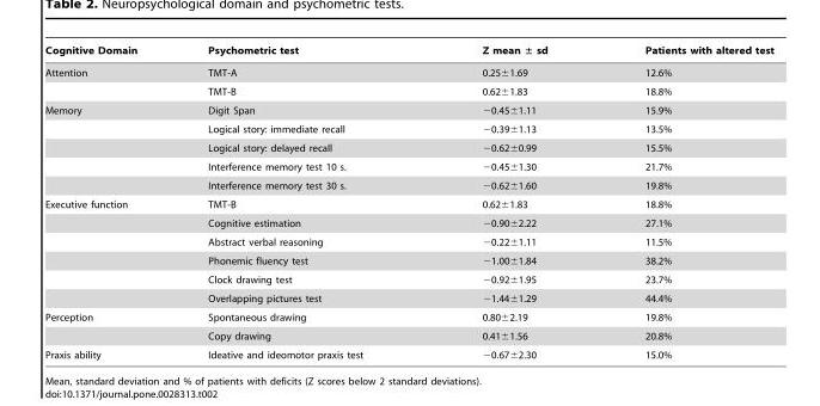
<table><thead><tr><td>Cognitive Domain</td><td>Psychometric test</td><td>Z mean ± sd</td><td>Patients with altered test</td></tr></thead><tbody><tr><td rowspan="2">Attention</td><td>TMT-A</td><td>0.25±1.69</td><td>12.6%</td></tr><tr><td>TMT-B</td><td>0.62±1.83</td><td>18.8%</td></tr><tr><td rowspan="5">Memory</td><td>Digit Span</td><td>−0.45±1.11</td><td>15.9%</td></tr><tr><td>Logical story: immediate recall</td><td>−0.39±1.13</td><td>13.5%</td></tr><tr><td>Logical story: delayed recall</td><td>−0.62±0.99</td><td>15.5%</td></tr><tr><td>Interference memory test 10 s.</td><td>−0.45±1.30</td><td>21.7%</td></tr><tr><td>Interference memory test 30 s.</td><td>−0.62±1.60</td><td>19.8%</td></tr><tr><td rowspan="6">Executive function</td><td>TMT-B</td><td>0.62±1.83</td><td>18.8%</td></tr><tr><td>Cognitive estimation</td><td>−0.90±2.22</td><td>27.1%</td></tr><tr><td>Abstract verbal reasoning</td><td>−0.22±1.11</td><td>11.5%</td></tr><tr><td>Phonemic fluency test</td><td>−1.00±1.84</td><td>38.2%</td></tr><tr><td>Clock drawing test</td><td>−0.92±1.95</td><td>23.7%</td></tr><tr><td>Overlapping pictures test</td><td>−1.44±1.29</td><td>44.4%</td></tr><tr><td rowspan="2">Perception</td><td>Spontaneous drawing</td><td>0.80±2.19</td><td>19.8%</td></tr><tr><td>Copy drawing</td><td>0.41±1.56</td><td>20.8%</td></tr><tr><td>Praxis ability</td><td>Ideative and ideomotor praxis test</td><td>−0.67±2.30</td><td>15.0%</td></tr></tbody></table>